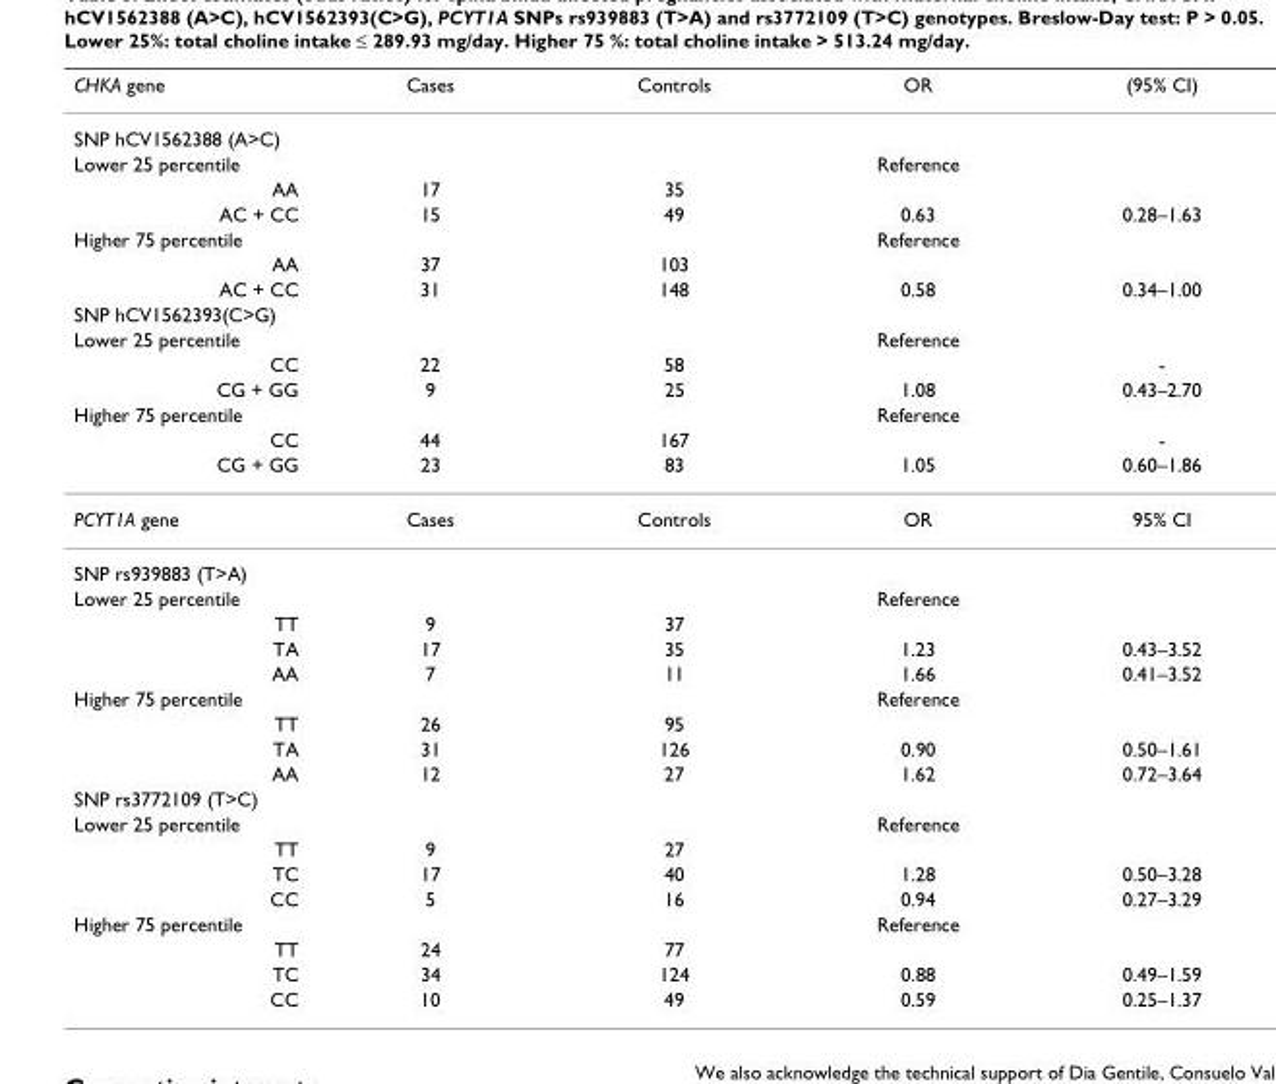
<table><thead><tr><td>CHKA gene</td><td>Cases</td><td>Controls</td><td>OR</td><td>(95% CI)</td></tr></thead><tbody><tr><td colspan="5">SNP hCV1562388 (A&gt;C)</td></tr><tr><td>Lower 25 percentile</td><td></td><td></td><td>Reference</td><td></td></tr><tr><td>AA</td><td>17</td><td>35</td><td></td><td></td></tr><tr><td>AC + CC</td><td>15</td><td>49</td><td>0.63</td><td>0.28–1.63</td></tr><tr><td>Higher 75 percentile</td><td></td><td></td><td>Reference</td><td></td></tr><tr><td>AA</td><td>37</td><td>103</td><td></td><td></td></tr><tr><td>AC + CC</td><td>31</td><td>148</td><td>0.58</td><td>0.34–1.00</td></tr><tr><td colspan="5">SNP hCV1562393(C&gt;G)</td></tr><tr><td>Lower 25 percentile</td><td></td><td></td><td>Reference</td><td></td></tr><tr><td>CC</td><td>22</td><td>58</td><td></td><td>-</td></tr><tr><td>CG + GG</td><td>9</td><td>25</td><td>1.08</td><td>0.43–2.70</td></tr><tr><td>Higher 75 percentile</td><td></td><td></td><td>Reference</td><td></td></tr><tr><td>CC</td><td>44</td><td>167</td><td></td><td>-</td></tr><tr><td>CG + GG</td><td>23</td><td>83</td><td>1.05</td><td>0.60–1.86</td></tr><tr><td>PCYT1A gene</td><td>Cases</td><td>Controls</td><td>OR</td><td>95% CI</td></tr><tr><td colspan="5">SNP rs939883 (T&gt;A)</td></tr><tr><td>Lower 25 percentile</td><td></td><td></td><td>Reference</td><td></td></tr><tr><td>TT</td><td>9</td><td>37</td><td></td><td></td></tr><tr><td>TA</td><td>17</td><td>35</td><td>1.23</td><td>0.43–3.52</td></tr><tr><td>AA</td><td>7</td><td>11</td><td>1.66</td><td>0.41–3.52</td></tr><tr><td>Higher 75 percentile</td><td></td><td></td><td>Reference</td><td></td></tr><tr><td>TT</td><td>26</td><td>95</td><td></td><td></td></tr><tr><td>TA</td><td>31</td><td>126</td><td>0.90</td><td>0.50–1.61</td></tr><tr><td>AA</td><td>12</td><td>27</td><td>1.62</td><td>0.72–3.64</td></tr><tr><td colspan="5">SNP rs3772109 (T&gt;C)</td></tr><tr><td>Lower 25 percentile</td><td></td><td></td><td>Reference</td><td></td></tr><tr><td>TT</td><td>9</td><td>27</td><td></td><td></td></tr><tr><td>TC</td><td>17</td><td>40</td><td>1.28</td><td>0.50–3.28</td></tr><tr><td>CC</td><td>5</td><td>16</td><td>0.94</td><td>0.27–3.29</td></tr><tr><td>Higher 75 percentile</td><td></td><td></td><td>Reference</td><td></td></tr><tr><td>TT</td><td>24</td><td>77</td><td></td><td></td></tr><tr><td>TC</td><td>34</td><td>124</td><td>0.88</td><td>0.49–1.59</td></tr><tr><td>CC</td><td>10</td><td>49</td><td>0.59</td><td>0.25–1.37</td></tr></tbody></table>